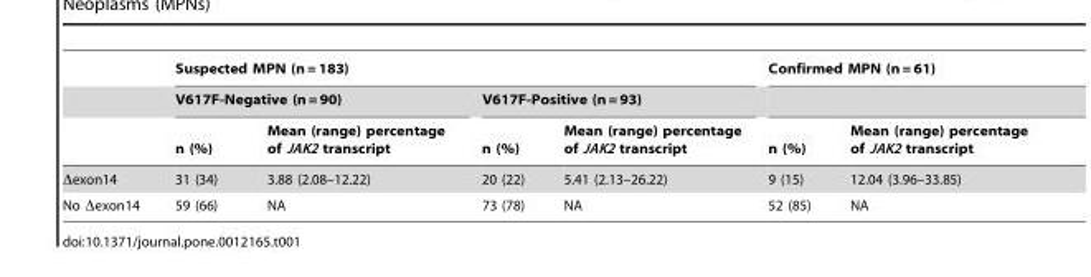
<table><thead><tr><td rowspan="3"></td><td colspan="4">Suspected MPN (n = 183)</td><td colspan="2">Confirmed MPN (n = 61)</td></tr><tr><td colspan="2">V617F-Negative (n = 90)</td><td colspan="2">V617F-Positive (n = 93)</td><td rowspan="2">n (%)</td><td rowspan="2">Mean (range) percentage of JAK2 transcript</td></tr><tr><td>n (%)</td><td>Mean (range) percentage of JAK2 transcript</td><td>n (%)</td><td>Mean (range) percentage of JAK2 transcript</td></tr></thead><tbody><tr><td>Δexon14</td><td>31 (34)</td><td>3.88 (2.08–12.22)</td><td>20 (22)</td><td>5.41 (2.13–26.22)</td><td>9 (15)</td><td>12.04 (3.96–33.85)</td></tr><tr><td>No Δexon14</td><td>59 (66)</td><td>NA</td><td>73 (78)</td><td>NA</td><td>52 (85)</td><td>NA</td></tr></tbody></table>